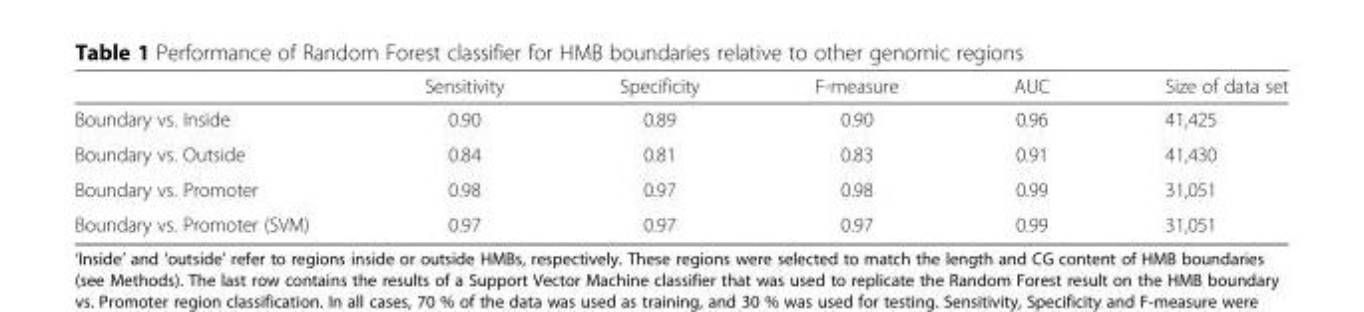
<table><thead><tr><td></td><td>Sensitivity</td><td>Specificity</td><td>F-measure</td><td>AUC</td><td>Size of data set</td></tr></thead><tbody><tr><td>Boundary vs. Inside</td><td>0.90</td><td>0.89</td><td>0.90</td><td>0.96</td><td>41,425</td></tr><tr><td>Boundary vs. Outside</td><td>0.84</td><td>0.81</td><td>0.83</td><td>0.91</td><td>41,430</td></tr><tr><td>Boundary vs. Promoter</td><td>0.98</td><td>0.97</td><td>0.98</td><td>0.99</td><td>31,051</td></tr><tr><td>Boundary vs. Promoter (SVM)</td><td>0.97</td><td>0.97</td><td>0.97</td><td>0.99</td><td>31,051</td></tr></tbody></table>